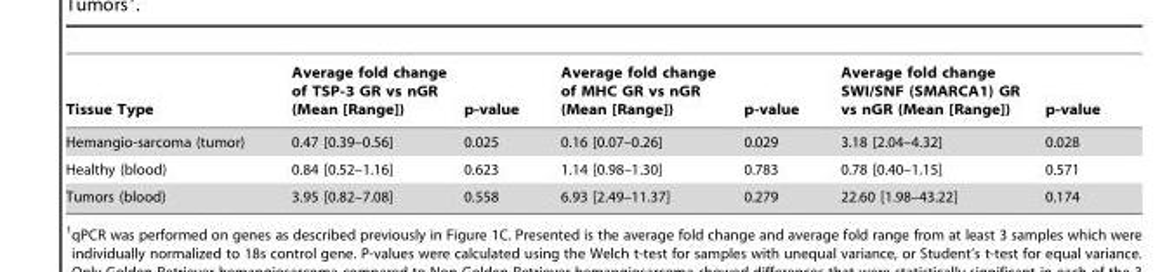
<table><thead><tr><td>Tissue Type</td><td>Average fold change of TSP-3 GR vs nGR (Mean [Range])</td><td>p-value</td><td>Average fold change of MHC GR vs nGR (Mean [Range])</td><td>p-value</td><td>Average fold change SWI/SNF (SMARCA1) GR vs nGR (Mean [Range])</td><td>p-value</td></tr></thead><tbody><tr><td>Hemangio-sarcoma (tumor)</td><td>0.47 [0.39–0.56]</td><td>0.025</td><td>0.16 [0.07–0.26]</td><td>0.029</td><td>3.18 [2.04–4.32]</td><td>0.028</td></tr><tr><td>Healthy (blood)</td><td>0.84 [0.52–1.16]</td><td>0.623</td><td>1.14 [0.98–1.30]</td><td>0.783</td><td>0.78 [0.40–1.15]</td><td>0.571</td></tr><tr><td>Tumors (blood)</td><td>3.95 [0.82–7.08]</td><td>0.558</td><td>6.93 [2.49–11.37]</td><td>0.279</td><td>22.60 [1.98–43.22]</td><td>0.174</td></tr></tbody></table>